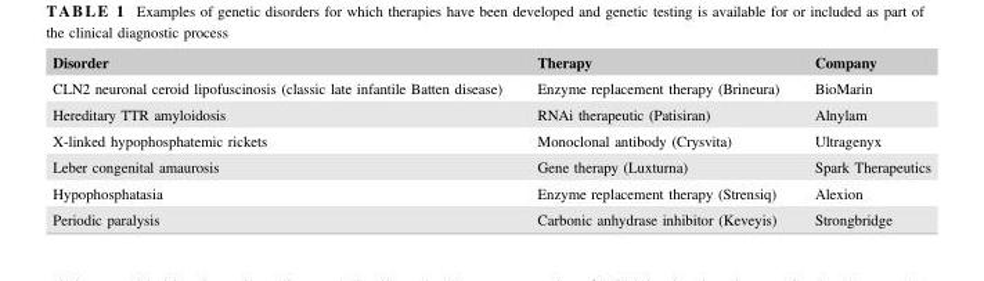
<table><thead><tr><td>Disorder</td><td>Therapy</td><td>Company</td></tr></thead><tbody><tr><td>CLN2 neuronal ceroid lipofuscinosis (classic late infantile Batten disease)</td><td>Enzyme replacement therapy (Brineura)</td><td>BioMarin</td></tr><tr><td>Hereditary TTR amyloidosis</td><td>RNAi therapeutic (Patisiran)</td><td>Alnylam</td></tr><tr><td>X-linked hypophosphatemic rickets</td><td>Monoclonal antibody (Crysvita)</td><td>Ultragenyx</td></tr><tr><td>Leber congenital amaurosis</td><td>Gene therapy (Luxturna)</td><td>Spark Therapeutics</td></tr><tr><td>Hypophosphatasia</td><td>Enzyme replacement therapy (Strensiq)</td><td>Alexion</td></tr><tr><td>Periodic paralysis</td><td>Carbonic anhydrase inhibitor (Keveyis)</td><td>Strongbridge</td></tr></tbody></table>